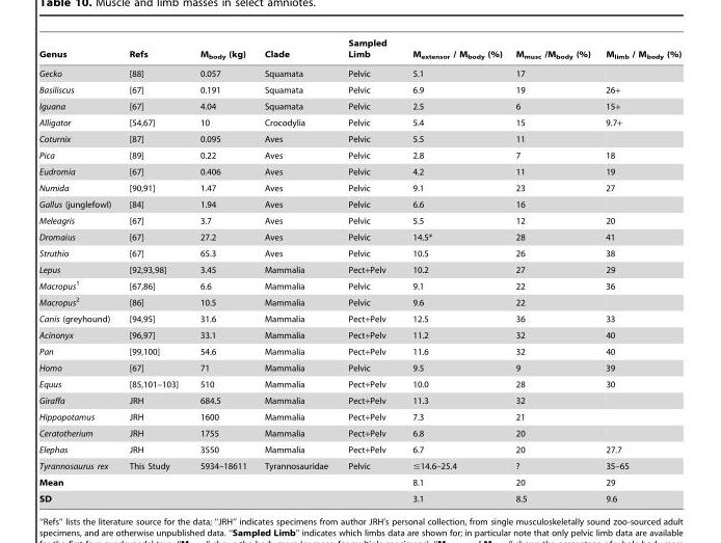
<table><thead><tr><td>Genus</td><td>Refs</td><td>M<sub>body</sub> (kg)</td><td>Clade</td><td>Sampled Limb</td><td>M<sub>extensor</sub> / M<sub>body</sub> (%)</td><td>M<sub>musc</sub> /M<sub>body</sub> (%)</td><td>M<sub>limb</sub> / M<sub>body</sub> (%)</td></tr></thead><tbody><tr><td>Gecko</td><td>[88]</td><td>0.057</td><td>Squamata</td><td>Pelvic</td><td>5.1</td><td>17</td><td></td></tr><tr><td>Basiliscus</td><td>[67]</td><td>0.191</td><td>Squamata</td><td>Pelvic</td><td>6.9</td><td>19</td><td>26+</td></tr><tr><td>Iguana</td><td>[67]</td><td>4.04</td><td>Squamata</td><td>Pelvic</td><td>2.5</td><td>6</td><td>15+</td></tr><tr><td>Alligator</td><td>[54,67]</td><td>10</td><td>Crocodylia</td><td>Pelvic</td><td>5.4</td><td>15</td><td>9.7+</td></tr><tr><td>Coturnix</td><td>[87]</td><td>0.095</td><td>Aves</td><td>Pelvic</td><td>5.5</td><td>11</td><td></td></tr><tr><td>Pica</td><td>[89]</td><td>0.22</td><td>Aves</td><td>Pelvic</td><td>2.8</td><td>7</td><td>18</td></tr><tr><td>Eudromia</td><td>[67]</td><td>0.406</td><td>Aves</td><td>Pelvic</td><td>4.2</td><td>11</td><td>19</td></tr><tr><td>Numida</td><td>[90,91]</td><td>1.47</td><td>Aves</td><td>Pelvic</td><td>9.1</td><td>23</td><td>27</td></tr><tr><td>Gallus (junglefowl)</td><td>[84]</td><td>1.94</td><td>Aves</td><td>Pelvic</td><td>6.6</td><td>16</td><td></td></tr><tr><td>Meleagris</td><td>[67]</td><td>3.7</td><td>Aves</td><td>Pelvic</td><td>5.5</td><td>12</td><td>20</td></tr><tr><td>Dromaius</td><td>[67]</td><td>27.2</td><td>Aves</td><td>Pelvic</td><td>14.5*</td><td>28</td><td>41</td></tr><tr><td>Struthio</td><td>[67]</td><td>65.3</td><td>Aves</td><td>Pelvic</td><td>10.5</td><td>26</td><td>38</td></tr><tr><td>Lepus</td><td>[92,93,98]</td><td>3.45</td><td>Mammalia</td><td>Pect+Pelv</td><td>10.2</td><td>27</td><td>29</td></tr><tr><td>Macropus<sup>1</sup></td><td>[67,86]</td><td>6.6</td><td>Mammalia</td><td>Pelvic</td><td>9.1</td><td>22</td><td>36</td></tr><tr><td>Macropus<sup>2</sup></td><td>[86]</td><td>10.5</td><td>Mammalia</td><td>Pelvic</td><td>9.6</td><td>22</td><td></td></tr><tr><td>Canis (greyhound)</td><td>[94,95]</td><td>31.6</td><td>Mammalia</td><td>Pect+Pelv</td><td>12.5</td><td>36</td><td>33</td></tr><tr><td>Acinonyx</td><td>[96,97]</td><td>33.1</td><td>Mammalia</td><td>Pect+Pelv</td><td>11.2</td><td>32</td><td>40</td></tr><tr><td>Pan</td><td>[99,100]</td><td>54.6</td><td>Mammalia</td><td>Pect+Pelv</td><td>11.6</td><td>32</td><td>40</td></tr><tr><td>Homo</td><td>[67]</td><td>71</td><td>Mammalia</td><td>Pelvic</td><td>9.5</td><td>9</td><td>39</td></tr><tr><td>Equus</td><td>[85,101–103]</td><td>510</td><td>Mammalia</td><td>Pect+Pelv</td><td>10.0</td><td>28</td><td>30</td></tr><tr><td>Giraffa</td><td>JRH</td><td>684.5</td><td>Mammalia</td><td>Pect+Pelv</td><td>11.3</td><td>32</td><td></td></tr><tr><td>Hippopotamus</td><td>JRH</td><td>1600</td><td>Mammalia</td><td>Pect+Pelv</td><td>7.3</td><td>21</td><td></td></tr><tr><td>Ceratotherium</td><td>JRH</td><td>1755</td><td>Mammalia</td><td>Pect+Pelv</td><td>6.8</td><td>20</td><td></td></tr><tr><td>Elephas</td><td>JRH</td><td>3550</td><td>Mammalia</td><td>Pect+Pelv</td><td>6.7</td><td>20</td><td>27.7</td></tr><tr><td>Tyrannosaurus rex</td><td>This Study</td><td>5934–18611</td><td>Tyrannosauridae</td><td>Pelvic</td><td>≤14.6–25.4</td><td>?</td><td>35–65</td></tr><tr><td colspan="5">Mean</td><td>8.1</td><td>20</td><td>29</td></tr><tr><td colspan="5">SD</td><td>3.1</td><td>8.5</td><td>9.6</td></tr></tbody></table>